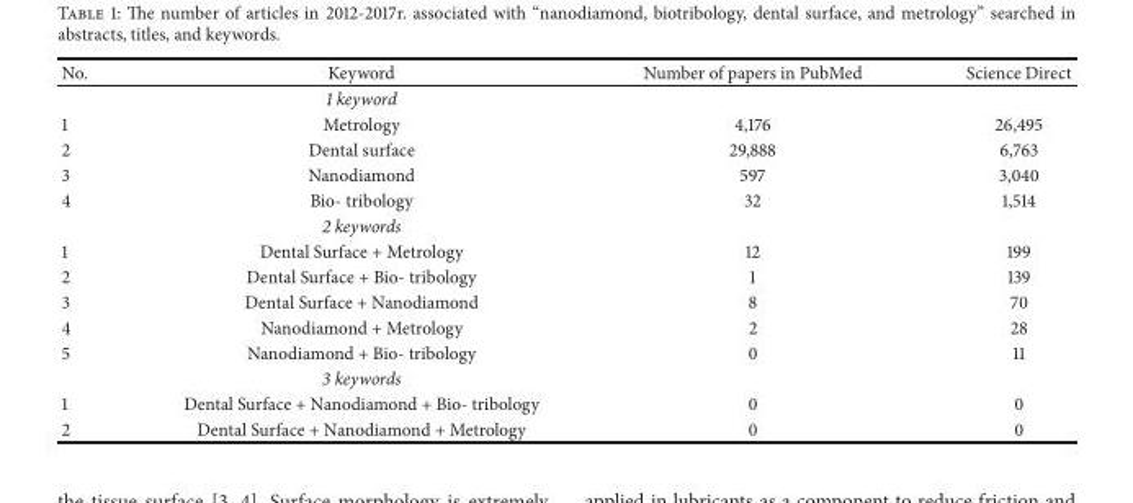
<table><thead><tr><td>No.</td><td>Keyword</td><td>Number of papers in PubMed</td><td>Science Direct</td></tr></thead><tbody><tr><td></td><td>1 keyword</td><td></td><td></td></tr><tr><td>1</td><td>Metrology</td><td>4,176</td><td>26,495</td></tr><tr><td>2</td><td>Dental surface</td><td>29,888</td><td>6,763</td></tr><tr><td>3</td><td>Nanodiamond</td><td>597</td><td>3,040</td></tr><tr><td rowspan="2">4</td><td>Bio- tribology</td><td>32</td><td>1,514</td></tr><tr><td>2 keywords</td><td></td><td></td></tr><tr><td>1</td><td>Dental Surface + Metrology</td><td>12</td><td>199</td></tr><tr><td>2</td><td>Dental Surface + Bio- tribology</td><td>1</td><td>139</td></tr><tr><td>3</td><td>Dental Surface + Nanodiamond</td><td>8</td><td>70</td></tr><tr><td>4</td><td>Nanodiamond + Metrology</td><td>2</td><td>28</td></tr><tr><td rowspan="2">5</td><td>Nanodiamond + Bio- tribology</td><td>0</td><td>11</td></tr><tr><td>3 keywords</td><td></td><td></td></tr><tr><td>1</td><td>Dental Surface + Nanodiamond + Bio- tribology</td><td>0</td><td>0</td></tr><tr><td>2</td><td>Dental Surface + Nanodiamond + Metrology</td><td>0</td><td>0</td></tr></tbody></table>